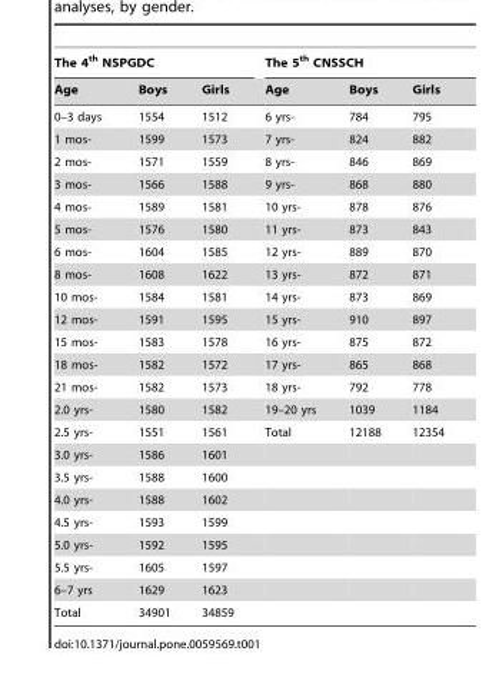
<table><thead><tr><td colspan="3">The 4<sup>th</sup> NSPGDC</td><td colspan="3">The 5<sup>th</sup> CNSSCH</td></tr><tr><td>Age</td><td>Boys</td><td>Girls</td><td>Age</td><td>Boys</td><td>Girls</td></tr></thead><tbody><tr><td>0–3 days</td><td>1554</td><td>1512</td><td>6 yrs-</td><td>784</td><td>795</td></tr><tr><td>1 mos-</td><td>1599</td><td>1573</td><td>7 yrs-</td><td>824</td><td>882</td></tr><tr><td>2 mos-</td><td>1571</td><td>1559</td><td>8 yrs-</td><td>846</td><td>869</td></tr><tr><td>3 mos-</td><td>1566</td><td>1588</td><td>9 yrs-</td><td>868</td><td>880</td></tr><tr><td>4 mos-</td><td>1589</td><td>1581</td><td>10 yrs-</td><td>878</td><td>876</td></tr><tr><td>5 mos-</td><td>1576</td><td>1580</td><td>11 yrs-</td><td>873</td><td>843</td></tr><tr><td>6 mos-</td><td>1604</td><td>1585</td><td>12 yrs-</td><td>889</td><td>870</td></tr><tr><td>8 mos-</td><td>1608</td><td>1622</td><td>13 yrs-</td><td>872</td><td>871</td></tr><tr><td>10 mos-</td><td>1584</td><td>1581</td><td>14 yrs-</td><td>873</td><td>869</td></tr><tr><td>12 mos-</td><td>1591</td><td>1595</td><td>15 yrs-</td><td>910</td><td>897</td></tr><tr><td>15 mos-</td><td>1583</td><td>1578</td><td>16 yrs-</td><td>875</td><td>872</td></tr><tr><td>18 mos-</td><td>1582</td><td>1572</td><td>17 yrs-</td><td>865</td><td>868</td></tr><tr><td>21 mos-</td><td>1582</td><td>1573</td><td>18 yrs-</td><td>792</td><td>778</td></tr><tr><td>2.0 yrs-</td><td>1580</td><td>1582</td><td>19–20 yrs</td><td>1039</td><td>1184</td></tr><tr><td>2.5 yrs-</td><td>1551</td><td>1561</td><td>Total</td><td>12188</td><td>12354</td></tr><tr><td>3.0 yrs-</td><td>1586</td><td>1601</td><td></td><td></td><td></td></tr><tr><td>3.5 yrs-</td><td>1588</td><td>1600</td><td></td><td></td><td></td></tr><tr><td>4.0 yrs-</td><td>1588</td><td>1602</td><td></td><td></td><td></td></tr><tr><td>4.5 yrs-</td><td>1593</td><td>1599</td><td></td><td></td><td></td></tr><tr><td>5.0 yrs-</td><td>1592</td><td>1595</td><td></td><td></td><td></td></tr><tr><td>5.5 yrs-</td><td>1605</td><td>1597</td><td></td><td></td><td></td></tr><tr><td>6–7 yrs</td><td>1629</td><td>1623</td><td></td><td></td><td></td></tr><tr><td>Total</td><td>34901</td><td>34859</td><td></td><td></td><td></td></tr></tbody></table>